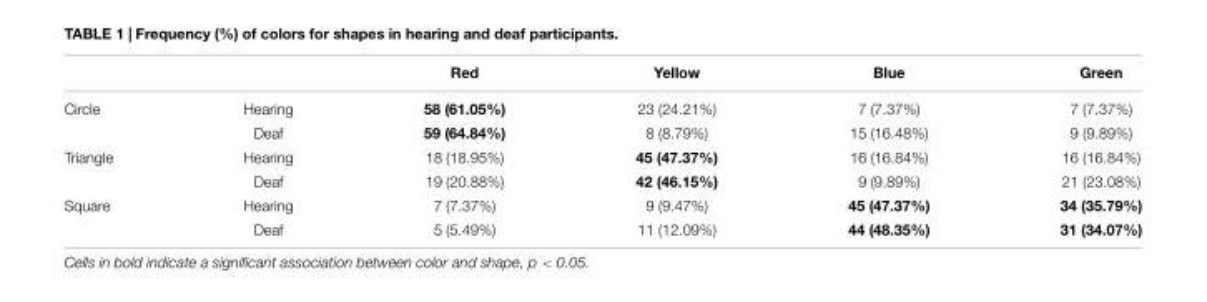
<table><thead><tr><td></td><td></td><td>Red</td><td>Yellow</td><td>Blue</td><td>Green</td></tr></thead><tbody><tr><td rowspan="2">Circle</td><td>Hearing</td><td>58 (61.05%)</td><td>23 (24.21%)</td><td>7 (7.37%)</td><td>7 (7.37%)</td></tr><tr><td>Deaf</td><td>59 (64.84%)</td><td>8 (8.79%)</td><td>15 (16.48%)</td><td>9 (9.89%)</td></tr><tr><td rowspan="2">Triangle</td><td>Hearing</td><td>18 (18.95%)</td><td>45 (47.37%)</td><td>16 (16.84%)</td><td>16 (16.84%)</td></tr><tr><td>Deaf</td><td>19 (20.88%)</td><td>42 (46.15%)</td><td>9 (9.89%)</td><td>21 (23.08%)</td></tr><tr><td rowspan="2">Square</td><td>Hearing</td><td>7 (7.37%)</td><td>9 (9.47%)</td><td>45 (47.37%)</td><td>34 (35.79%)</td></tr><tr><td>Deaf</td><td>5 (5.49%)</td><td>11 (12.09%)</td><td>44 (48.35%)</td><td>31 (34.07%)</td></tr></tbody></table>